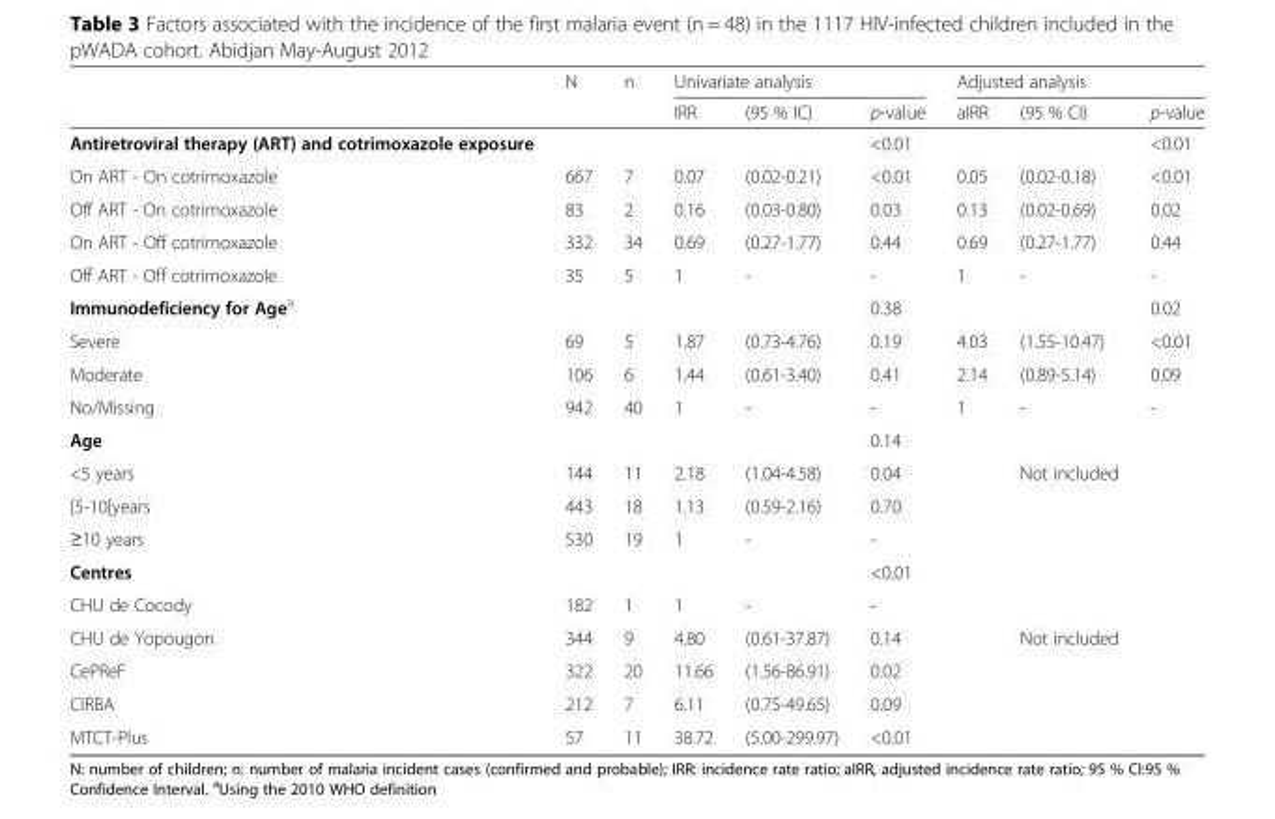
<table><thead><tr><td rowspan="2"></td><td rowspan="2">N</td><td rowspan="2">n</td><td colspan="3">Univariate analysis</td><td colspan="3">Adjusted analysis</td></tr><tr><td>IRR</td><td>(95 % IC)</td><td>p-value</td><td>aIRR</td><td>(95 % CI)</td><td>p-value</td></tr></thead><tbody><tr><td>Antiretroviral therapy (ART) and cotrimoxazole exposure</td><td></td><td></td><td></td><td></td><td>&lt;0.01</td><td></td><td></td><td>&lt;0.01</td></tr><tr><td>On ART - On cotrimoxazole</td><td>667</td><td>7</td><td>0.07</td><td>(0.02-0.21)</td><td>&lt;0.01</td><td>0.05</td><td>(0.02-0.18)</td><td>&lt;0.01</td></tr><tr><td>Off ART - On cotrimoxazole</td><td>83</td><td>2</td><td>0.16</td><td>(0.03-0.80)</td><td>0.03</td><td>0.13</td><td>(0.02-0.69)</td><td>0.02</td></tr><tr><td>On ART - Off cotrimoxazole</td><td>332</td><td>34</td><td>0.69</td><td>(0.27-1.77)</td><td>0.44</td><td>0.69</td><td>(0.27-1.77)</td><td>0.44</td></tr><tr><td>Off ART - Off cotrimoxazole</td><td>35</td><td>5</td><td>1</td><td>-</td><td>-</td><td>1</td><td>-</td><td>-</td></tr><tr><td>Immunodeficiency for Age<sup>a</sup></td><td></td><td></td><td></td><td></td><td>0.38</td><td></td><td></td><td>0.02</td></tr><tr><td>Severe</td><td>69</td><td>5</td><td>1.87</td><td>(0.73-4.76)</td><td>0.19</td><td>4.03</td><td>(1.55-10.47)</td><td>&lt;0.01</td></tr><tr><td>Moderate</td><td>106</td><td>6</td><td>1.44</td><td>(0.61-3.40)</td><td>0.41</td><td>2.14</td><td>(0.89-5.14)</td><td>0.09</td></tr><tr><td>No/Missing</td><td>942</td><td>40</td><td>1</td><td>-</td><td>-</td><td>1</td><td>-</td><td>-</td></tr><tr><td>Age</td><td></td><td></td><td></td><td></td><td>0.14</td><td></td><td></td><td></td></tr><tr><td>&lt;5 years</td><td>144</td><td>11</td><td>2.18</td><td>(1.04-4.58)</td><td>0.04</td><td></td><td>Not included</td><td></td></tr><tr><td>[5-10[years</td><td>443</td><td>18</td><td>1.13</td><td>(0.59-2.16)</td><td>0.70</td><td></td><td></td><td></td></tr><tr><td>≥10 years</td><td>530</td><td>19</td><td>1</td><td>-</td><td>-</td><td></td><td></td><td></td></tr><tr><td>Centres</td><td></td><td></td><td></td><td></td><td>&lt;0.01</td><td></td><td></td><td></td></tr><tr><td>CHU de Cocody</td><td>182</td><td>1</td><td>1</td><td>-</td><td>-</td><td></td><td></td><td></td></tr><tr><td>CHU de Yopougon</td><td>344</td><td>9</td><td>4.80</td><td>(0.61-37.87)</td><td>0.14</td><td></td><td>Not included</td><td></td></tr><tr><td>CePReF</td><td>322</td><td>20</td><td>11.66</td><td>(1.56-86.91)</td><td>0.02</td><td></td><td></td><td></td></tr><tr><td>CIRBA</td><td>212</td><td>7</td><td>6.11</td><td>(0.75-49.65)</td><td>0.09</td><td></td><td></td><td></td></tr><tr><td>MTCT-Plus</td><td>57</td><td>11</td><td>38.72</td><td>(5.00-299.97)</td><td>&lt;0.01</td><td></td><td></td><td></td></tr></tbody></table>